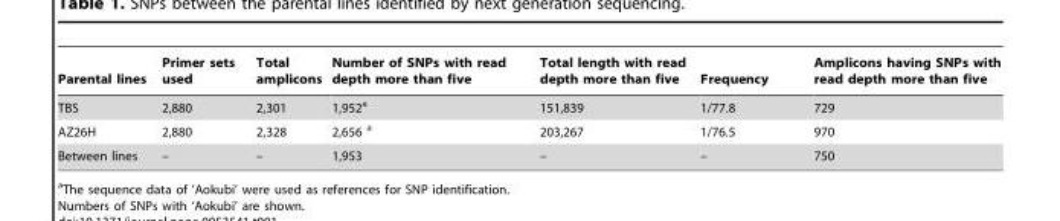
<table><thead><tr><td>Parental lines</td><td>Primer sets used</td><td>Total amplicons</td><td>Number of SNPs with read depth more than five</td><td>Total length with read depth more than five</td><td>Frequency</td><td>Amplicons having SNPs with read depth more than five</td></tr></thead><tbody><tr><td>TBS</td><td>2,880</td><td>2,301</td><td>1,952<sup>a</sup></td><td>151,839</td><td>1/77.8</td><td>729</td></tr><tr><td>AZ26H</td><td>2,880</td><td>2,328</td><td>2,656 a</td><td>203,267</td><td>1/76.5</td><td>970</td></tr><tr><td>Between lines</td><td>–</td><td>–</td><td>1,953</td><td>–</td><td>–</td><td>750</td></tr></tbody></table>